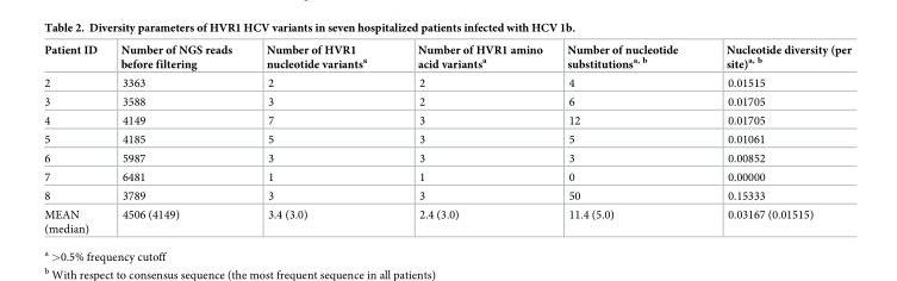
<table><thead><tr><td>Patient ID</td><td>Number of NGS reads before filtering</td><td>Number of HVR1 nucleotide variants<sup>a</sup></td><td>Number of HVR1 amino acid variants<sup>a</sup></td><td>Number of nucleotide substitutions<sup>a, b</sup></td><td>Nucleotide diversity (per site)<sup>a, b</sup></td></tr></thead><tbody><tr><td>2</td><td>3363</td><td>2</td><td>2</td><td>4</td><td>0.01515</td></tr><tr><td>3</td><td>3588</td><td>3</td><td>2</td><td>6</td><td>0.01705</td></tr><tr><td>4</td><td>4149</td><td>7</td><td>3</td><td>12</td><td>0.01705</td></tr><tr><td>5</td><td>4185</td><td>5</td><td>3</td><td>5</td><td>0.01061</td></tr><tr><td>6</td><td>5987</td><td>3</td><td>3</td><td>3</td><td>0.00852</td></tr><tr><td>7</td><td>6481</td><td>1</td><td>1</td><td>0</td><td>0.00000</td></tr><tr><td>8</td><td>3789</td><td>3</td><td>3</td><td>50</td><td>0.15333</td></tr><tr><td>MEAN (median)</td><td>4506 (4149)</td><td>3.4 (3.0)</td><td>2.4 (3.0)</td><td>11.4 (5.0)</td><td>0.03167 (0.01515)</td></tr></tbody></table>